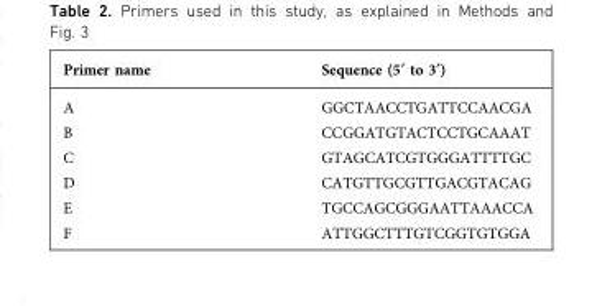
<table><thead><tr><td>Primer name</td><td>Sequence (5¢ to 3¢)</td></tr></thead><tbody><tr><td>A</td><td>GGCTAACCTGATTCCAACGA</td></tr><tr><td>B</td><td>CCGGATGTACTCCTGCAAAT</td></tr><tr><td>C</td><td>GTAGCATCGTGGGATTTTGC</td></tr><tr><td>D</td><td>CATGTTGCGTTGACGTACAG</td></tr><tr><td>E</td><td>TGCCAGCGGGAATTAAACCA</td></tr><tr><td>F</td><td>ATTGGCTTTGTCGGTGTGGA</td></tr></tbody></table>